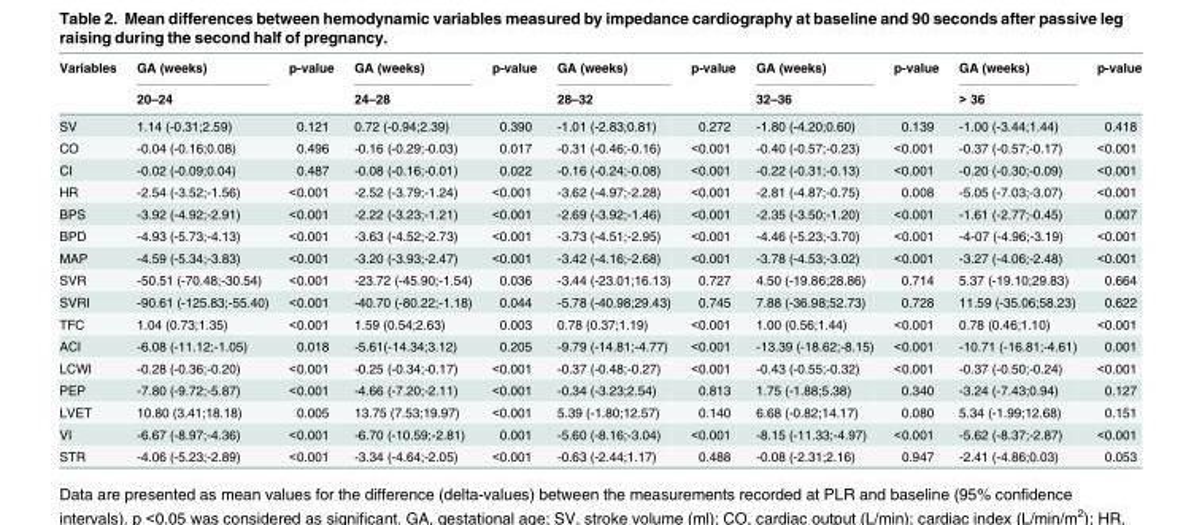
<table><thead><tr><td rowspan="2">Variables</td><td rowspan="2">GA (weeks) 20–24</td><td rowspan="2">p-value</td><td rowspan="2">GA (weeks) 24–28</td><td rowspan="2">p-value</td><td rowspan="2">GA (weeks) 28–32</td><td rowspan="2">p-value</td><td rowspan="2">GA (weeks) 32–36</td><td rowspan="2">p-value</td><td rowspan="2">GA (weeks) &gt; 36</td><td rowspan="2">p-value</td></tr><tr></tr></thead><tbody><tr><td>SV</td><td>1.14 (-0.31;2.59)</td><td>0.121</td><td>0.72 (-0.94;2.39)</td><td>0.390</td><td>-1.01 (-2.83;0.81)</td><td>0.272</td><td>-1.80 (-4.20;0.60)</td><td>0.139</td><td>-1.00 (-3.44;1.44)</td><td>0.418</td></tr><tr><td>CO</td><td>-0.04 (-0.16;0.08)</td><td>0.496</td><td>-0.16 (-0.29;-0.03)</td><td>0.017</td><td>-0.31 (-0.46;-0.16)</td><td>&lt;0.001</td><td>-0.40 (-0.57;-0.23)</td><td>&lt;0.001</td><td>-0.37 (-0.57;-0.17)</td><td>&lt;0.001</td></tr><tr><td>CI</td><td>-0.02 (-0.09;0.04)</td><td>0.487</td><td>-0.08 (-0.16;-0.01)</td><td>0.022</td><td>-0.16 (-0.24;-0.08)</td><td>&lt;0.001</td><td>-0.22 (-0.31;-0.13)</td><td>&lt;0.001</td><td>-0.20 (-0.30;-0.09)</td><td>&lt;0.001</td></tr><tr><td>HR</td><td>-2.54 (-3.52;-1.56)</td><td>&lt;0.001</td><td>-2.52 (-3.79;-1.24)</td><td>&lt;0.001</td><td>-3.62 (-4.97;-2.28)</td><td>&lt;0.001</td><td>-2.81 (-4.87;-0.75)</td><td>0.008</td><td>-5.05 (-7.03;-3.07)</td><td>&lt;0.001</td></tr><tr><td>BPS</td><td>-3.92 (-4.92;-2.91)</td><td>&lt;0.001</td><td>-2.22 (-3.23;-1.21)</td><td>&lt;0.001</td><td>-2.69 (-3.92;-1.46)</td><td>&lt;0.001</td><td>-2.35 (-3.50;-1.20)</td><td>&lt;0.001</td><td>-1.61 (-2.77;-0.45)</td><td>0.007</td></tr><tr><td>BPD</td><td>-4.93 (-5.73;-4.13)</td><td>&lt;0.001</td><td>-3.63 (-4.52;-2.73)</td><td>&lt;0.001</td><td>-3.73 (-4.51;-2.95)</td><td>&lt;0.001</td><td>-4.46 (-5.23;-3.70)</td><td>&lt;0.001</td><td>-4-07 (-4.96;-3.19)</td><td>&lt;0.001</td></tr><tr><td>MAP</td><td>-4.59 (-5.34;-3.83)</td><td>&lt;0.001</td><td>-3.20 (-3.93;-2.47)</td><td>&lt;0.001</td><td>-3.42 (-4.16;-2.68)</td><td>&lt;0.001</td><td>-3.78 (-4.53;-3.02)</td><td>&lt;0.001</td><td>-3.27 (-4.06;-2.48)</td><td>&lt;0.001</td></tr><tr><td>SVR</td><td>-50.51 (-70.48;-30.54)</td><td>&lt;0.001</td><td>-23.72 (-45.90;-1.54)</td><td>0.036</td><td>-3.44 (-23.01;16.13)</td><td>0.727</td><td>4.50 (-19.86;28.86)</td><td>0.714</td><td>5.37 (-19.10;29.83)</td><td>0.664</td></tr><tr><td>SVRI</td><td>-90.61 (-125.83;-55.40)</td><td>&lt;0.001</td><td>-40.70 (-80.22;-1.18)</td><td>0.044</td><td>-5.78 (-40.98;29.43)</td><td>0.745</td><td>7.88 (-36.98;52.73)</td><td>0.728</td><td>11.59 (-35.06;58.23)</td><td>0.622</td></tr><tr><td>TFC</td><td>1.04 (0.73;1.35)</td><td>&lt;0.001</td><td>1.59 (0.54;2.63)</td><td>0.003</td><td>0.78 (0.37;1.19)</td><td>&lt;0.001</td><td>1.00 (0.56;1.44)</td><td>&lt;0.001</td><td>0.78 (0.46;1.10)</td><td>&lt;0.001</td></tr><tr><td>ACI</td><td>-6.08 (-11.12;-1.05)</td><td>0.018</td><td>-5.61(-14.34;3.12)</td><td>0.205</td><td>-9.79 (-14.81;-4.77)</td><td>&lt;0.001</td><td>-13.39 (-18.62;-8.15)</td><td>&lt;0.001</td><td>-10.71 (-16.81;-4.61)</td><td>0.001</td></tr><tr><td>LCWI</td><td>-0.28 (-0.36;-0.20)</td><td>&lt;0.001</td><td>-0.25 (-0.34;-0.17)</td><td>&lt;0.001</td><td>-0.37 (-0.48;-0.27)</td><td>&lt;0.001</td><td>-0.43 (-0.55;-0.32)</td><td>&lt;0.001</td><td>-0.37 (-0.50;-0.24)</td><td>&lt;0.001</td></tr><tr><td>PEP</td><td>-7.80 (-9.72;-5.87)</td><td>&lt;0.001</td><td>-4.66 (-7.20;-2.11)</td><td>&lt;0.001</td><td>-0.34 (-3.23;2.54)</td><td>0.813</td><td>1.75 (-1.88;5.38)</td><td>0.340</td><td>-3.24 (-7.43;0.94)</td><td>0.127</td></tr><tr><td>LVET</td><td>10.80 (3.41;18.18)</td><td>0.005</td><td>13.75 (7.53;19.97)</td><td>&lt;0.001</td><td>5.39 (-1.80;12.57)</td><td>0.140</td><td>6.68 (-0.82;14.17)</td><td>0.080</td><td>5.34 (-1.99;12.68)</td><td>0.151</td></tr><tr><td>VI</td><td>-6.67 (-8.97;-4.36)</td><td>&lt;0.001</td><td>-6.70 (-10.59;-2.81)</td><td>0.001</td><td>-5.60 (-8.16;-3.04)</td><td>&lt;0.001</td><td>-8.15 (-11.33;-4.97)</td><td>&lt;0.001</td><td>-5.62 (-8.37;-2.87)</td><td>&lt;0.001</td></tr><tr><td>STR</td><td>-4.06 (-5.23;-2.89)</td><td>&lt;0.001</td><td>-3.34 (-4.64;-2.05)</td><td>&lt;0.001</td><td>-0.63 (-2.44;1.17)</td><td>0.488</td><td>-0.08 (-2.31;2.16)</td><td>0.947</td><td>-2.41 (-4.86;0.03)</td><td>0.053</td></tr></tbody></table>